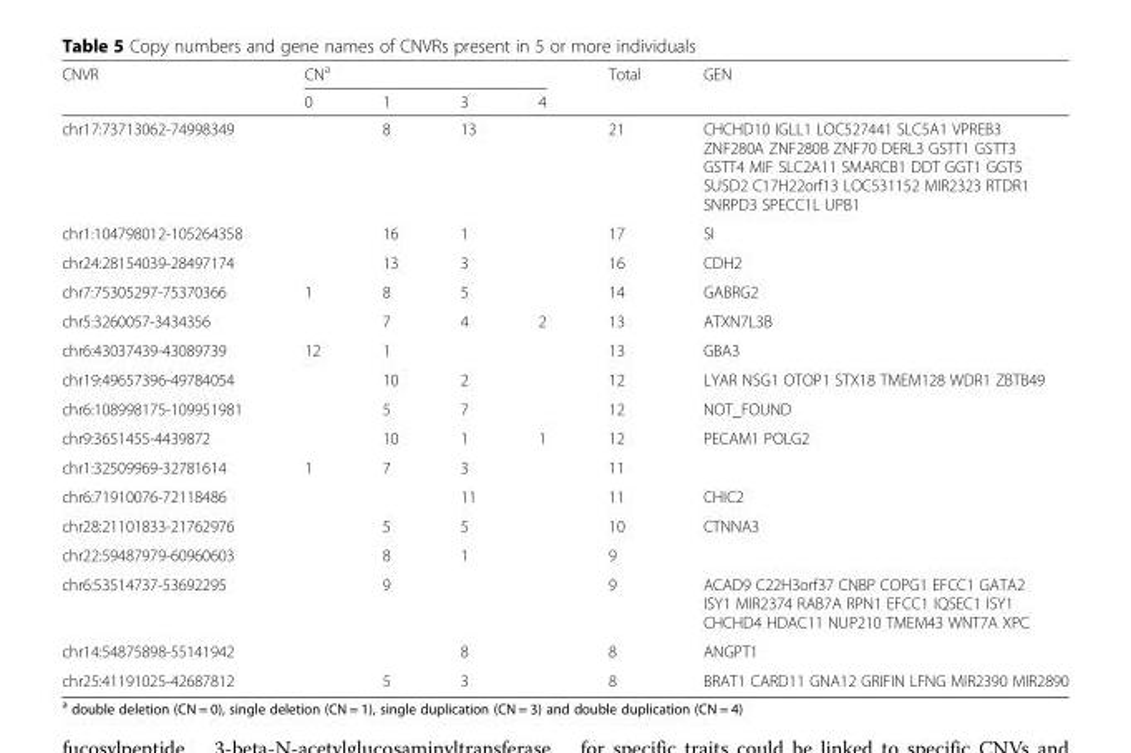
<table><thead><tr><td rowspan="2">CNVR</td><td colspan="4">CN<sup>a</sup></td><td rowspan="2">Total</td><td rowspan="2">GEN</td></tr><tr><td>0</td><td>1</td><td>3</td><td>4</td></tr></thead><tbody><tr><td>chr17:73713062-74998349</td><td></td><td>8</td><td>13</td><td></td><td>21</td><td>CHCHD10 IGLL1 LOC527441 SLC5A1 VPREB3 ZNF280A ZNF280B ZNF70 DERL3 GSTT1 GSTT3 GSTT4 MIF SLC2A11 SMARCB1 DDT GGT1 GGT5 SUSD2 C17H22orf13 LOC531152 MIR2323 RTDR1 SNRPD3 SPECC1L UPB1</td></tr><tr><td>chr1:104798012-105264358</td><td></td><td>16</td><td>1</td><td></td><td>17</td><td>SI</td></tr><tr><td>chr24:28154039-28497174</td><td></td><td>13</td><td>3</td><td></td><td>16</td><td>CDH2</td></tr><tr><td>chr7:75305297-75370366</td><td>1</td><td>8</td><td>5</td><td></td><td>14</td><td>GABRG2</td></tr><tr><td>chr5:3260057-3434356</td><td></td><td>7</td><td>4</td><td>2</td><td>13</td><td>ATXN7L3B</td></tr><tr><td>chr6:43037439-43089739</td><td>12</td><td>1</td><td></td><td></td><td>13</td><td>GBA3</td></tr><tr><td>chr19:49657396-49784054</td><td></td><td>10</td><td>2</td><td></td><td>12</td><td>LYAR NSG1 OTOP1 STX18 TMEM128 WDR1 ZBTB49</td></tr><tr><td>chr6:108998175-109951981</td><td></td><td>5</td><td>7</td><td></td><td>12</td><td>NOT_FOUND</td></tr><tr><td>chr9:3651455-4439872</td><td></td><td>10</td><td>1</td><td>1</td><td>12</td><td>PECAM1 POLG2</td></tr><tr><td>chr1:32509969-32781614</td><td>1</td><td>7</td><td>3</td><td></td><td>11</td><td></td></tr><tr><td>chr6:71910076-72118486</td><td></td><td></td><td>11</td><td></td><td>11</td><td>CHIC2</td></tr><tr><td>chr28:21101833-21762976</td><td></td><td>5</td><td>5</td><td></td><td>10</td><td>CTNNA3</td></tr><tr><td>chr22:59487979-60960603</td><td></td><td>8</td><td>1</td><td></td><td>9</td><td></td></tr><tr><td>chr6:53514737-53692295</td><td></td><td>9</td><td></td><td></td><td>9</td><td>ACAD9 C22H3orf37 CNBP COPG1 EFCC1 GATA2 ISY1 MIR2374 RAB7A RPN1 EFCC1 IQSEC1 ISY1 CHCHD4 HDAC11 NUP210 TMEM43 WNT7A XPC</td></tr><tr><td>chr14:54875898-55141942</td><td></td><td></td><td>8</td><td></td><td>8</td><td>ANGPT1</td></tr><tr><td>chr25:41191025-42687812</td><td></td><td>5</td><td>3</td><td></td><td>8</td><td>BRAT1 CARD11 GNA12 GRIFIN LFNG MIR2390 MIR2890</td></tr></tbody></table>